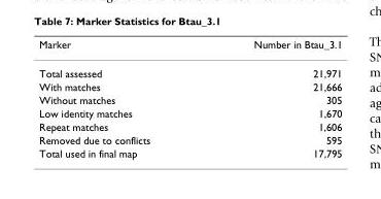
<table><thead><tr><td>Marker</td><td>Number in Btau_3.1</td></tr></thead><tbody><tr><td>Total assessed</td><td>21,971</td></tr><tr><td>With matches</td><td>21,666</td></tr><tr><td>Without matches</td><td>305</td></tr><tr><td>Low identity matches</td><td>1,670</td></tr><tr><td>Repeat matches</td><td>1,606</td></tr><tr><td>Removed due to conflicts</td><td>595</td></tr><tr><td>Total used in final map</td><td>17,795</td></tr></tbody></table>